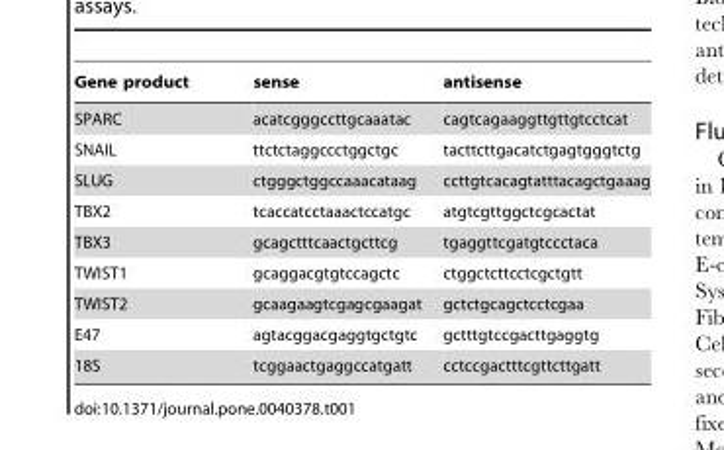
<table><thead><tr><td>Gene product</td><td>sense</td><td>antisense</td></tr></thead><tbody><tr><td>SPARC</td><td>acatcgggccttgcaaatac</td><td>cagtcagaaggttgttgtcctcat</td></tr><tr><td>SNAIL</td><td>ttctctaggccctggctgc</td><td>tacttcttgacatctgagtgggtctg</td></tr><tr><td>SLUG</td><td>ctgggctggccaaacataag</td><td>ccttgtcacagtatttacagctgaaag</td></tr><tr><td>TBX2</td><td>tcaccatcctaaactccatgc</td><td>atgtcgttggctcgcactat</td></tr><tr><td>TBX3</td><td>gcagctttcaactgcttcg</td><td>tgaggttcgatgtccctaca</td></tr><tr><td>TWIST1</td><td>gcaggacgtgtccagctc</td><td>ctggctcttcctcgctgtt</td></tr><tr><td>TWIST2</td><td>gcaagaagtcgagcgaagat</td><td>gctctgcagctcctcgaa</td></tr><tr><td>E47</td><td>agtacggacgaggtgctgtc</td><td>gctttgtccgacttgaggtg</td></tr><tr><td>18S</td><td>tcggaactgaggccatgatt</td><td>cctccgactttcgttcttgatt</td></tr></tbody></table>